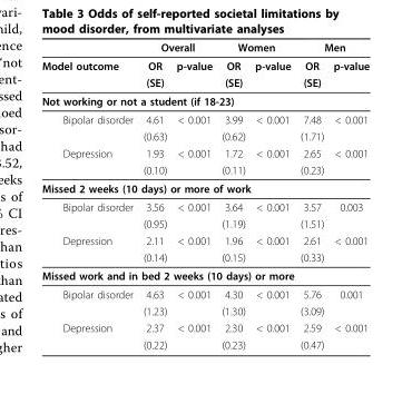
<table><thead><tr><td rowspan="2">Model outcome</td><td colspan="2">Overall</td><td colspan="2">Women</td><td colspan="2">Men</td></tr><tr><td>OR</td><td>p-value</td><td>OR</td><td>p-value</td><td>OR</td><td>p-value</td></tr></thead><tbody><tr><td></td><td>(SE)</td><td></td><td>(SE)</td><td></td><td>(SE)</td><td></td></tr><tr><td colspan="7">Not working or not a student (if 18-23)</td></tr><tr><td rowspan="2">Bipolar disorder</td><td>4.61</td><td>&lt; 0.001</td><td>3.99</td><td>&lt; 0.001</td><td>7.48</td><td>&lt; 0.001</td></tr><tr><td>(0.63)</td><td></td><td>(0.62)</td><td></td><td>(1.71)</td><td></td></tr><tr><td rowspan="2">Depression</td><td>1.93</td><td>&lt; 0.001</td><td>1.72</td><td>&lt; 0.001</td><td>2.65</td><td>&lt; 0.001</td></tr><tr><td>(0.10)</td><td></td><td>(0.11)</td><td></td><td>(0.23)</td><td></td></tr><tr><td colspan="7">Missed 2 weeks (10 days) or more of work</td></tr><tr><td rowspan="2">Bipolar disorder</td><td>3.56</td><td>&lt; 0.001</td><td>3.64</td><td>&lt; 0.001</td><td>3.57</td><td>0.003</td></tr><tr><td>(0.95)</td><td></td><td>(1.19)</td><td></td><td>(1.51)</td><td></td></tr><tr><td rowspan="2">Depression</td><td>2.11</td><td>&lt; 0.001</td><td>1.96</td><td>&lt; 0.001</td><td>2.61</td><td>&lt; 0.001</td></tr><tr><td>(0.14)</td><td></td><td>(0.15)</td><td></td><td>(0.33)</td><td></td></tr><tr><td colspan="7">Missed work and in bed 2 weeks (10 days) or more</td></tr><tr><td rowspan="2">Bipolar disorder</td><td>4.63</td><td>&lt; 0.001</td><td>4.30</td><td>&lt; 0.001</td><td>5.76</td><td>0.001</td></tr><tr><td>(1.23)</td><td></td><td>(1.30)</td><td></td><td>(3.09)</td><td></td></tr><tr><td rowspan="2">Depression</td><td>2.37</td><td>&lt; 0.001</td><td>2.30</td><td>&lt; 0.001</td><td>2.59</td><td>&lt; 0.001</td></tr><tr><td>(0.22)</td><td></td><td>(0.23)</td><td></td><td>(0.47)</td><td></td></tr></tbody></table>